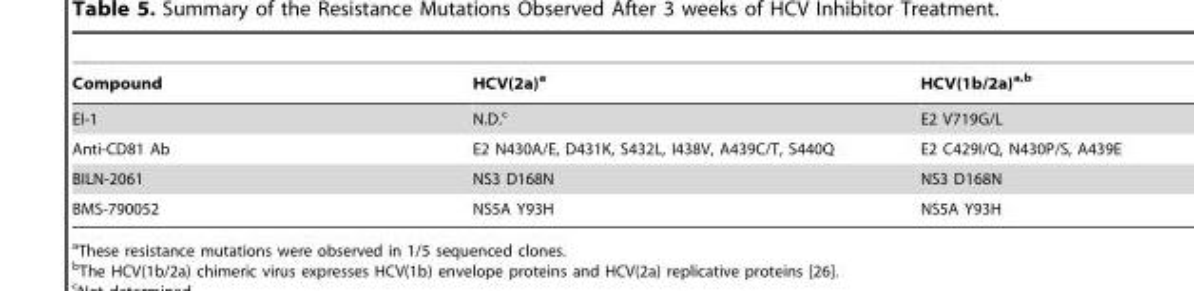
<table><thead><tr><td>Compound</td><td>HCV(2a)<sup>a</sup></td><td>HCV(1b/2a)a,b</td></tr></thead><tbody><tr><td>EI-1</td><td>N.D.<sup>c</sup></td><td>E2 V719G/L</td></tr><tr><td>Anti-CD81 Ab</td><td>E2 N430A/E, D431K, S432L, I438V, A439C/T, S440Q</td><td>E2 C429I/Q, N430P/S, A439E</td></tr><tr><td>BILN-2061</td><td>NS3 D168N</td><td>NS3 D168N</td></tr><tr><td>BMS-790052</td><td>NS5A Y93H</td><td>NS5A Y93H</td></tr></tbody></table>